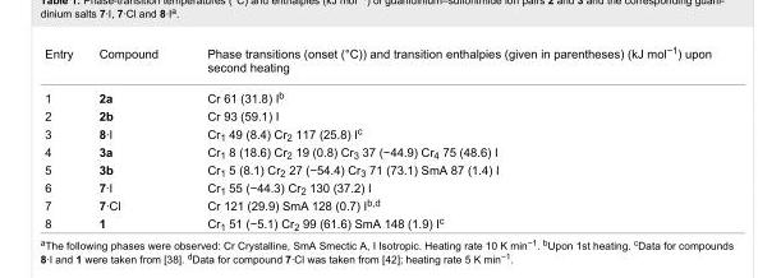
<table><tbody><tr><td>Entry</td><td>Compound</td><td>Phase transitions (onset (°C)) and transition enthalpies (given in parentheses) (kJ mol<sup>−1</sup>) upon second heating</td></tr><tr><td>1</td><td>2a</td><td>Cr 61 (31.8) I<sup>b</sup></td></tr><tr><td>2</td><td>2b</td><td>Cr 93 (59.1) I</td></tr><tr><td>3</td><td>8∙I</td><td>Cr<sub>1</sub> 49 (8.4) Cr<sub>2</sub> 117 (25.8) I<sup>c</sup></td></tr><tr><td>4</td><td>3a</td><td>Cr<sub>1</sub> 8 (18.6) Cr<sub>2</sub> 19 (0.8) Cr<sub>3</sub> 37 (−44.9) Cr<sub>4</sub> 75 (48.6) I</td></tr><tr><td>5</td><td>3b</td><td>Cr<sub>1</sub> 5 (8.1) Cr<sub>2</sub> 27 (−54.4) Cr<sub>3</sub> 71 (73.1) SmA 87 (1.4) I</td></tr><tr><td>6</td><td>7∙I</td><td>Cr<sub>1</sub> 55 (−44.3) Cr<sub>2</sub> 130 (37.2) I</td></tr><tr><td>7</td><td>7∙Cl</td><td>Cr 121 (29.9) SmA 128 (0.7) I<sup>b,d</sup></td></tr><tr><td>8</td><td>1</td><td>Cr<sub>1</sub> 51 (−5.1) Cr<sub>2</sub> 99 (61.6) SmA 148 (1.9) I<sup>c</sup></td></tr></tbody></table>